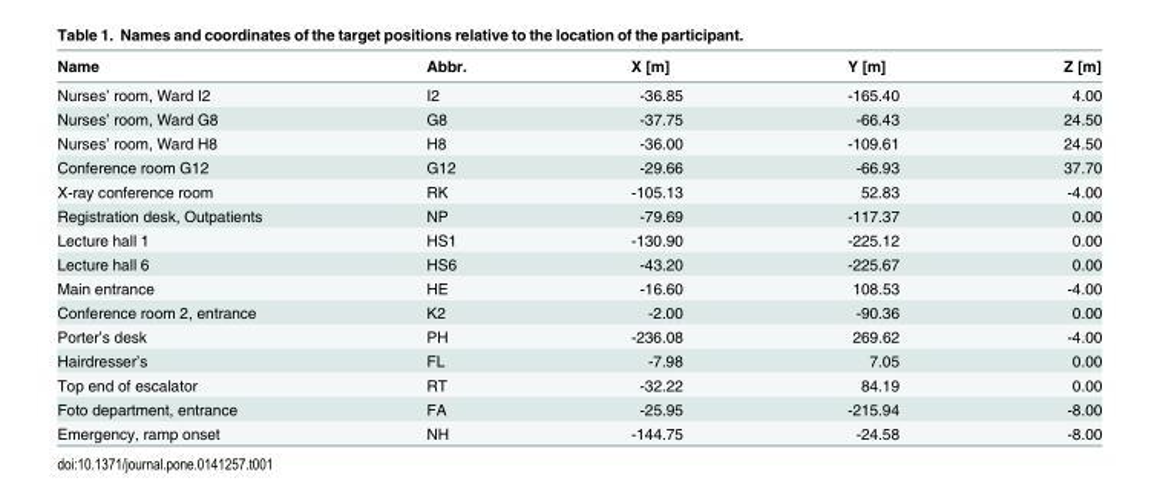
<table><thead><tr><td>Name</td><td>Abbr.</td><td>X [m]</td><td>Y [m]</td><td>Z [m]</td></tr></thead><tbody><tr><td>Nurses’ room, Ward I2</td><td>I2</td><td>-36.85</td><td>-165.40</td><td>4.00</td></tr><tr><td>Nurses’ room, Ward G8</td><td>G8</td><td>-37.75</td><td>-66.43</td><td>24.50</td></tr><tr><td>Nurses’ room, Ward H8</td><td>H8</td><td>-36.00</td><td>-109.61</td><td>24.50</td></tr><tr><td>Conference room G12</td><td>G12</td><td>-29.66</td><td>-66.93</td><td>37.70</td></tr><tr><td>X-ray conference room</td><td>RK</td><td>-105.13</td><td>52.83</td><td>-4.00</td></tr><tr><td>Registration desk, Outpatients</td><td>NP</td><td>-79.69</td><td>-117.37</td><td>0.00</td></tr><tr><td>Lecture hall 1</td><td>HS1</td><td>-130.90</td><td>-225.12</td><td>0.00</td></tr><tr><td>Lecture hall 6</td><td>HS6</td><td>-43.20</td><td>-225.67</td><td>0.00</td></tr><tr><td>Main entrance</td><td>HE</td><td>-16.60</td><td>108.53</td><td>-4.00</td></tr><tr><td>Conference room 2, entrance</td><td>K2</td><td>-2.00</td><td>-90.36</td><td>0.00</td></tr><tr><td>Porter’s desk</td><td>PH</td><td>-236.08</td><td>269.62</td><td>-4.00</td></tr><tr><td>Hairdresser’s</td><td>FL</td><td>-7.98</td><td>7.05</td><td>0.00</td></tr><tr><td>Top end of escalator</td><td>RT</td><td>-32.22</td><td>84.19</td><td>0.00</td></tr><tr><td>Foto department, entrance</td><td>FA</td><td>-25.95</td><td>-215.94</td><td>-8.00</td></tr><tr><td>Emergency, ramp onset</td><td>NH</td><td>-144.75</td><td>-24.58</td><td>-8.00</td></tr></tbody></table>